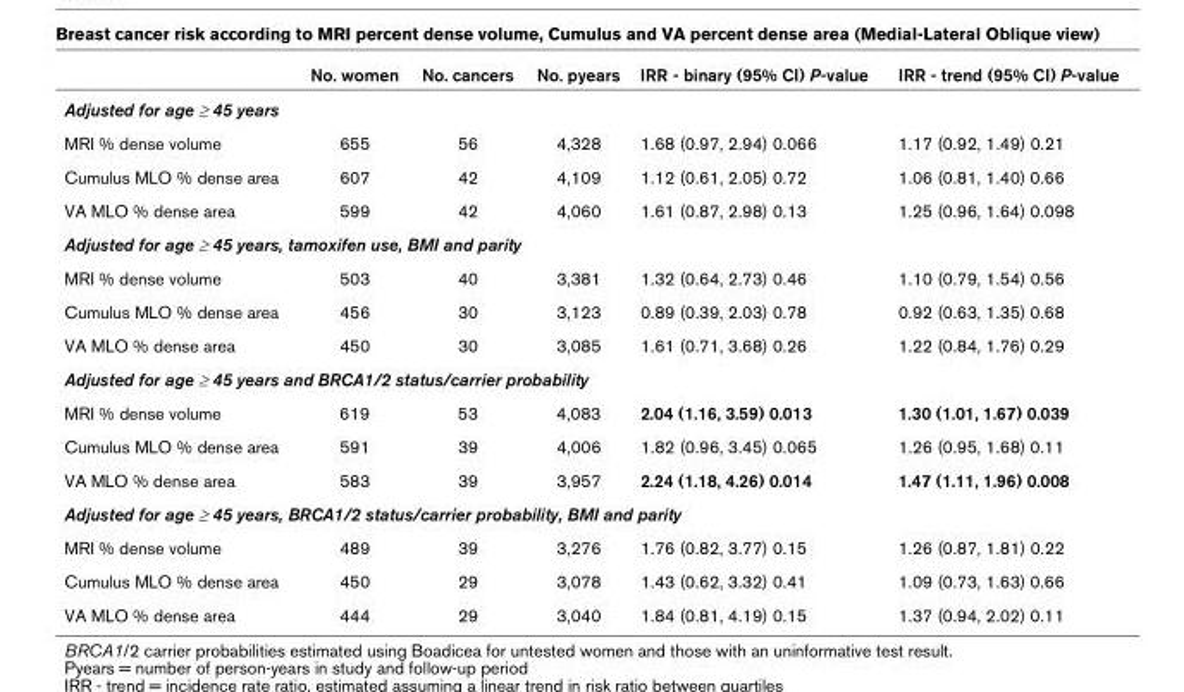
<table><thead><tr><td></td><td>No. women</td><td>No. cancers</td><td>No. pyears</td><td>IRR - binary (95% CI) P-value</td><td>IRR - trend (95% CI) P-value</td></tr></thead><tbody><tr><td colspan="6">Adjusted for age ≥ 45 years</td></tr><tr><td>MRI % dense volume</td><td>655</td><td>56</td><td>4,328</td><td>1.68 (0.97, 2.94) 0.066</td><td>1.17 (0.92, 1.49) 0.21</td></tr><tr><td>Cumulus MLO % dense area</td><td>607</td><td>42</td><td>4,109</td><td>1.12 (0.61, 2.05) 0.72</td><td>1.06 (0.81, 1.40) 0.66</td></tr><tr><td>VA MLO % dense area</td><td>599</td><td>42</td><td>4,060</td><td>1.61 (0.87, 2.98) 0.13</td><td>1.25 (0.96, 1.64) 0.098</td></tr><tr><td colspan="6">Adjusted for age ≥ 45 years, tamoxifen use, BMI and parity</td></tr><tr><td>MRI % dense volume</td><td>503</td><td>40</td><td>3,381</td><td>1.32 (0.64, 2.73) 0.46</td><td>1.10 (0.79, 1.54) 0.56</td></tr><tr><td>Cumulus MLO % dense area</td><td>456</td><td>30</td><td>3,123</td><td>0.89 (0.39, 2.03) 0.78</td><td>0.92 (0.63, 1.35) 0.68</td></tr><tr><td>VA MLO % dense area</td><td>450</td><td>30</td><td>3,085</td><td>1.61 (0.71, 3.68) 0.26</td><td>1.22 (0.84, 1.76) 0.29</td></tr><tr><td colspan="6">Adjusted for age ≥ 45 years and BRCA1/2 status/carrier probability</td></tr><tr><td>MRI % dense volume</td><td>619</td><td>53</td><td>4,083</td><td>2.04 (1.16, 3.59) 0.013</td><td>1.30 (1.01, 1.67) 0.039</td></tr><tr><td>Cumulus MLO % dense area</td><td>591</td><td>39</td><td>4,006</td><td>1.82 (0.96, 3.45) 0.065</td><td>1.26 (0.95, 1.68) 0.11</td></tr><tr><td>VA MLO % dense area</td><td>583</td><td>39</td><td>3,957</td><td>2.24 (1.18, 4.26) 0.014</td><td>1.47 (1.11, 1.96) 0.008</td></tr><tr><td colspan="6">Adjusted for age ≥ 45 years, BRCA1/2 status/carrier probability, BMI and parity</td></tr><tr><td>MRI % dense volume</td><td>489</td><td>39</td><td>3,276</td><td>1.76 (0.82, 3.77) 0.15</td><td>1.26 (0.87, 1.81) 0.22</td></tr><tr><td>Cumulus MLO % dense area</td><td>450</td><td>29</td><td>3,078</td><td>1.43 (0.62, 3.32) 0.41</td><td>1.09 (0.73, 1.63) 0.66</td></tr><tr><td>VA MLO % dense area</td><td>444</td><td>29</td><td>3,040</td><td>1.84 (0.81, 4.19) 0.15</td><td>1.37 (0.94, 2.02) 0.11</td></tr></tbody></table>